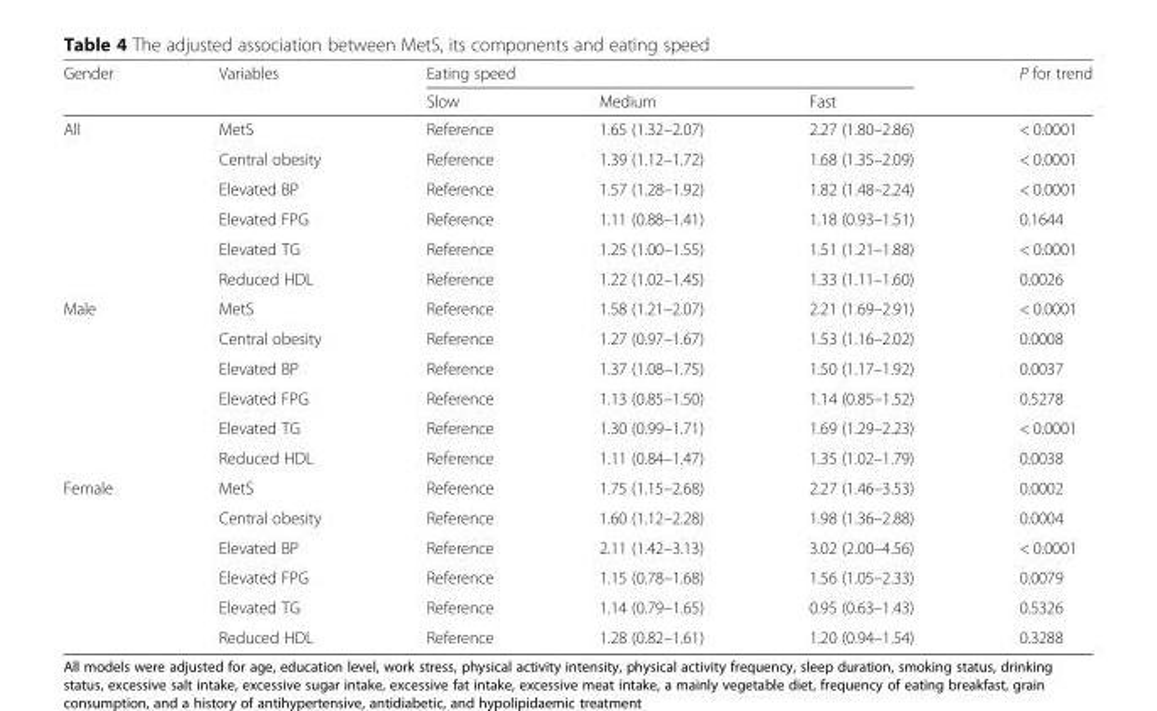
<table><thead><tr><td rowspan="2">Gender</td><td rowspan="2">Variables</td><td colspan="3">Eating speed</td><td rowspan="2">P for trend</td></tr><tr><td>Slow</td><td>Medium</td><td>Fast</td></tr></thead><tbody><tr><td rowspan="6">All</td><td>MetS</td><td>Reference</td><td>1.65 (1.32–2.07)</td><td>2.27 (1.80–2.86)</td><td>&lt; 0.0001</td></tr><tr><td>Central obesity</td><td>Reference</td><td>1.39 (1.12–1.72)</td><td>1.68 (1.35–2.09)</td><td>&lt; 0.0001</td></tr><tr><td>Elevated BP</td><td>Reference</td><td>1.57 (1.28–1.92)</td><td>1.82 (1.48–2.24)</td><td>&lt; 0.0001</td></tr><tr><td>Elevated FPG</td><td>Reference</td><td>1.11 (0.88–1.41)</td><td>1.18 (0.93–1.51)</td><td>0.1644</td></tr><tr><td>Elevated TG</td><td>Reference</td><td>1.25 (1.00–1.55)</td><td>1.51 (1.21–1.88)</td><td>&lt; 0.0001</td></tr><tr><td>Reduced HDL</td><td>Reference</td><td>1.22 (1.02–1.45)</td><td>1.33 (1.11–1.60)</td><td>0.0026</td></tr><tr><td rowspan="6">Male</td><td>MetS</td><td>Reference</td><td>1.58 (1.21–2.07)</td><td>2.21 (1.69–2.91)</td><td>&lt; 0.0001</td></tr><tr><td>Central obesity</td><td>Reference</td><td>1.27 (0.97–1.67)</td><td>1.53 (1.16–2.02)</td><td>0.0008</td></tr><tr><td>Elevated BP</td><td>Reference</td><td>1.37 (1.08–1.75)</td><td>1.50 (1.17–1.92)</td><td>0.0037</td></tr><tr><td>Elevated FPG</td><td>Reference</td><td>1.13 (0.85–1.50)</td><td>1.14 (0.85–1.52)</td><td>0.5278</td></tr><tr><td>Elevated TG</td><td>Reference</td><td>1.30 (0.99–1.71)</td><td>1.69 (1.29–2.23)</td><td>&lt; 0.0001</td></tr><tr><td>Reduced HDL</td><td>Reference</td><td>1.11 (0.84–1.47)</td><td>1.35 (1.02–1.79)</td><td>0.0038</td></tr><tr><td rowspan="6">Female</td><td>MetS</td><td>Reference</td><td>1.75 (1.15–2.68)</td><td>2.27 (1.46–3.53)</td><td>0.0002</td></tr><tr><td>Central obesity</td><td>Reference</td><td>1.60 (1.12–2.28)</td><td>1.98 (1.36–2.88)</td><td>0.0004</td></tr><tr><td>Elevated BP</td><td>Reference</td><td>2.11 (1.42–3.13)</td><td>3.02 (2.00–4.56)</td><td>&lt; 0.0001</td></tr><tr><td>Elevated FPG</td><td>Reference</td><td>1.15 (0.78–1.68)</td><td>1.56 (1.05–2.33)</td><td>0.0079</td></tr><tr><td>Elevated TG</td><td>Reference</td><td>1.14 (0.79–1.65)</td><td>0.95 (0.63–1.43)</td><td>0.5326</td></tr><tr><td>Reduced HDL</td><td>Reference</td><td>1.28 (0.82–1.61)</td><td>1.20 (0.94–1.54)</td><td>0.3288</td></tr></tbody></table>